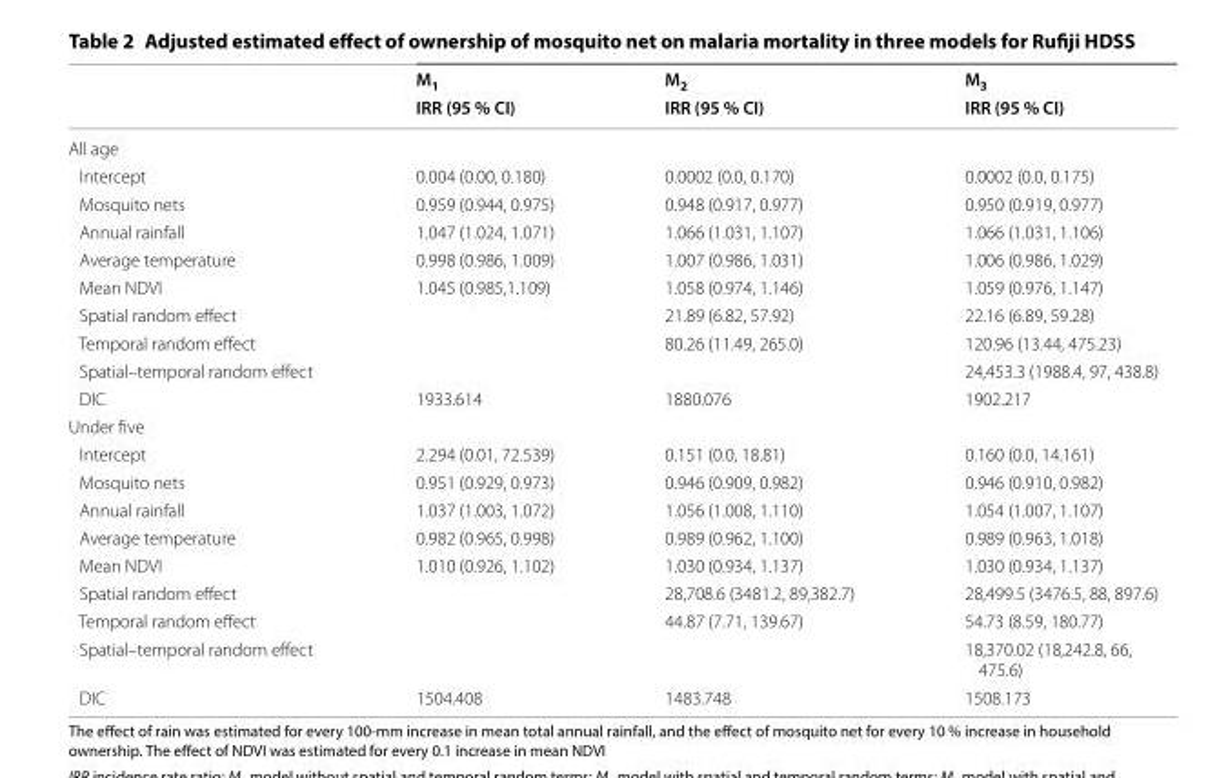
<table><thead><tr><td rowspan="2"></td><td rowspan="2">M<sub>1</sub> IRR (95 % CI)</td><td rowspan="2">M<sub>2</sub> IRR (95 % CI)</td><td rowspan="2">M<sub>3</sub> IRR (95 % CI)</td></tr><tr></tr></thead><tbody><tr><td colspan="4">All age</td></tr><tr><td>Intercept</td><td>0.004 (0.00, 0.180)</td><td>0.0002 (0.0, 0.170)</td><td>0.0002 (0.0, 0.175)</td></tr><tr><td>Mosquito nets</td><td>0.959 (0.944, 0.975)</td><td>0.948 (0.917, 0.977)</td><td>0.950 (0.919, 0.977)</td></tr><tr><td>Annual rainfall</td><td>1.047 (1.024, 1.071)</td><td>1.066 (1.031, 1.107)</td><td>1.066 (1.031, 1.106)</td></tr><tr><td>Average temperature</td><td>0.998 (0.986, 1.009)</td><td>1.007 (0.986, 1.031)</td><td>1.006 (0.986, 1.029)</td></tr><tr><td>Mean NDVI</td><td>1.045 (0.985,1.109)</td><td>1.058 (0.974, 1.146)</td><td>1.059 (0.976, 1.147)</td></tr><tr><td>Spatial random effect</td><td></td><td>21.89 (6.82, 57.92)</td><td>22.16 (6.89, 59.28)</td></tr><tr><td>Temporal random effect</td><td></td><td>80.26 (11.49, 265.0)</td><td>120.96 (13.44, 475.23)</td></tr><tr><td>Spatial–temporal random effect</td><td></td><td></td><td>24,453.3 (1988.4, 97, 438.8)</td></tr><tr><td>DIC</td><td>1933.614</td><td>1880.076</td><td>1902.217</td></tr><tr><td colspan="4">Under five</td></tr><tr><td>Intercept</td><td>2.294 (0.01, 72.539)</td><td>0.151 (0.0, 18.81)</td><td>0.160 (0.0, 14.161)</td></tr><tr><td>Mosquito nets</td><td>0.951 (0.929, 0.973)</td><td>0.946 (0.909, 0.982)</td><td>0.946 (0.910, 0.982)</td></tr><tr><td>Annual rainfall</td><td>1.037 (1.003, 1.072)</td><td>1.056 (1.008, 1.110)</td><td>1.054 (1.007, 1.107)</td></tr><tr><td>Average temperature</td><td>0.982 (0.965, 0.998)</td><td>0.989 (0.962, 1.100)</td><td>0.989 (0.963, 1.018)</td></tr><tr><td>Mean NDVI</td><td>1.010 (0.926, 1.102)</td><td>1.030 (0.934, 1.137)</td><td>1.030 (0.934, 1.137)</td></tr><tr><td>Spatial random effect</td><td></td><td>28,708.6 (3481.2, 89,382.7)</td><td>28,499.5 (3476.5, 88, 897.6)</td></tr><tr><td>Temporal random effect</td><td></td><td>44.87 (7.71, 139.67)</td><td>54.73 (8.59, 180.77)</td></tr><tr><td>Spatial–temporal random effect</td><td></td><td></td><td>18,370.02 (18,242.8, 66, 475.6)</td></tr><tr><td>DIC</td><td>1504.408</td><td>1483.748</td><td>1508.173</td></tr></tbody></table>